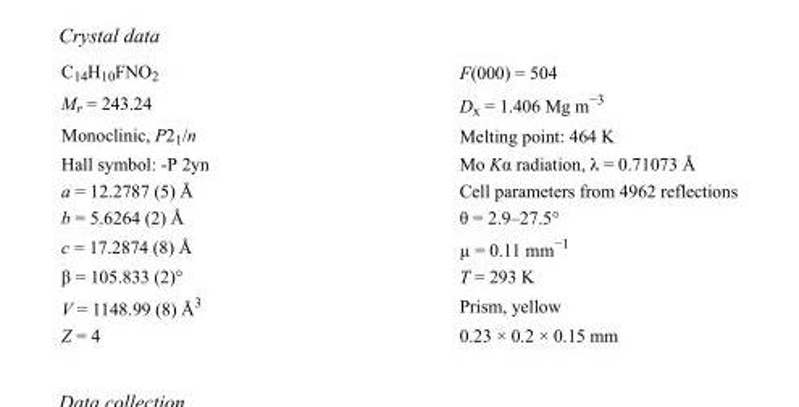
<table><tbody><tr><td>C<sub>14</sub>H<sub>10</sub>FNO<sub>2</sub></td><td>F(000) = 504</td></tr><tr><td>M<sub>r</sub> = 243.24</td><td>D<sub>x</sub> = 1.406 Mg m<sup>−3</sup></td></tr><tr><td>Monoclinic, P2<sub>1</sub>/n</td><td>Melting point: 464 K</td></tr><tr><td>Hall symbol: -P 2yn</td><td>Mo Kα radiation, λ = 0.71073 Å</td></tr><tr><td>a = 12.2787 (5) Å</td><td>Cell parameters from 4962 reflections</td></tr><tr><td>b = 5.6264 (2) Å</td><td>θ = 2.9–27.5°</td></tr><tr><td>c = 17.2874 (8) Å</td><td>µ = 0.11 mm<sup>−1</sup></td></tr><tr><td>β = 105.833 (2)°</td><td>T = 293 K</td></tr><tr><td>V = 1148.99 (8) Å<sup>3</sup></td><td>Prism, yellow</td></tr><tr><td>Z = 4</td><td>0.23 × 0.2 × 0.15 mm</td></tr></tbody></table>